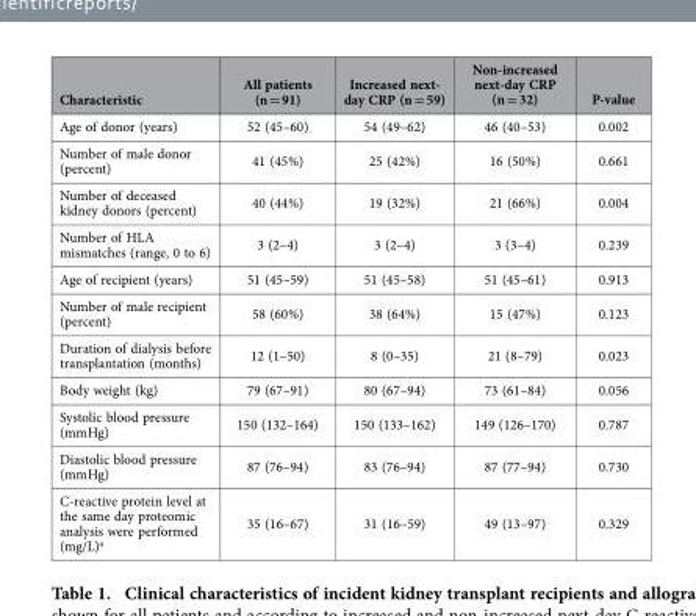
<table><thead><tr><td>Characteristic</td><td>All patients (n = 91)</td><td>Increased next- day CRP (n = 59)</td><td>Non-increased next-day CRP (n = 32)</td><td>P-value</td></tr></thead><tbody><tr><td>Age of donor (years)</td><td>52 (45–60)</td><td>54 (49–62)</td><td>46 (40–53)</td><td>0.002</td></tr><tr><td>Number of male donor (percent)</td><td>41 (45%)</td><td>25 (42%)</td><td>16 (50%)</td><td>0.661</td></tr><tr><td>Number of deceased kidney donors (percent)</td><td>40 (44%)</td><td>19 (32%)</td><td>21 (66%)</td><td>0.004</td></tr><tr><td>Number of HLA mismatches (range, 0 to 6)</td><td>3 (2–4)</td><td>3 (2–4)</td><td>3 (3–4)</td><td>0.239</td></tr><tr><td>Age of recipient (years)</td><td>51 (45–59)</td><td>51 (45–58)</td><td>51 (45–61)</td><td>0.913</td></tr><tr><td>Number of male recipient (percent)</td><td>58 (60%)</td><td>38 (64%)</td><td>15 (47%)</td><td>0.123</td></tr><tr><td>Duration of dialysis before transplantation (months)</td><td>12 (1–50)</td><td>8 (0–35)</td><td>21 (8–79)</td><td>0.023</td></tr><tr><td>Body weight (kg)</td><td>79 (67–91)</td><td>80 (67–94)</td><td>73 (61–84)</td><td>0.056</td></tr><tr><td>Systolic blood pressure (mmHg)</td><td>150 (132–164)</td><td>150 (133–162)</td><td>149 (126–170)</td><td>0.787</td></tr><tr><td>Diastolic blood pressure (mmHg)</td><td>87 (76–94)</td><td>83 (76–94)</td><td>87 (77–94)</td><td>0.730</td></tr><tr><td>C-reactive protein level at the same day proteomic analysis were performed (mg/L)<sup>a</sup></td><td>35 (16–67)</td><td>31 (16–59)</td><td>49 (13–97)</td><td>0.329</td></tr></tbody></table>